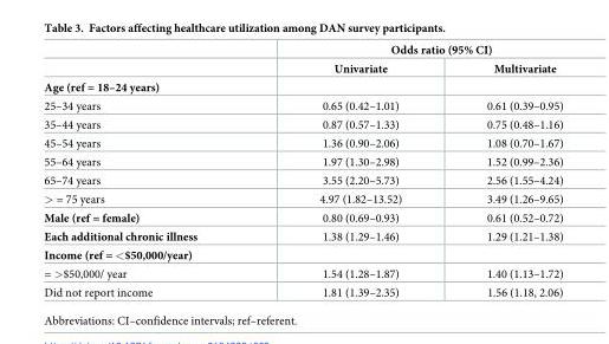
<table><thead><tr><td rowspan="2"></td><td colspan="2">Odds ratio (95% CI)</td></tr><tr><td>Univariate</td><td>Multivariate</td></tr></thead><tbody><tr><td colspan="3">Age (ref = 18–24 years)</td></tr><tr><td>25–34 years</td><td>0.65 (0.42–1.01)</td><td>0.61 (0.39–0.95)</td></tr><tr><td>35–44 years</td><td>0.87 (0.57–1.33)</td><td>0.75 (0.48–1.16)</td></tr><tr><td>45–54 years</td><td>1.36 (0.90–2.06)</td><td>1.08 (0.70–1.67)</td></tr><tr><td>55–64 years</td><td>1.97 (1.30–2.98)</td><td>1.52 (0.99–2.36)</td></tr><tr><td>65–74 years</td><td>3.55 (2.20–5.73)</td><td>2.56 (1.55–4.24)</td></tr><tr><td>&gt; = 75 years</td><td>4.97 (1.82–13.52)</td><td>3.49 (1.26–9.65)</td></tr><tr><td>Male (ref = female)</td><td>0.80 (0.69–0.93)</td><td>0.61 (0.52–0.72)</td></tr><tr><td>Each additional chronic illness</td><td>1.38 (1.29–1.46)</td><td>1.29 (1.21–1.38)</td></tr><tr><td colspan="3">Income (ref = &lt;$50,000/year)</td></tr><tr><td>= &gt;$50,000/ year</td><td>1.54 (1.28–1.87)</td><td>1.40 (1.13–1.72)</td></tr><tr><td>Did not report income</td><td>1.81 (1.39–2.35)</td><td>1.56 (1.18, 2.06)</td></tr></tbody></table>